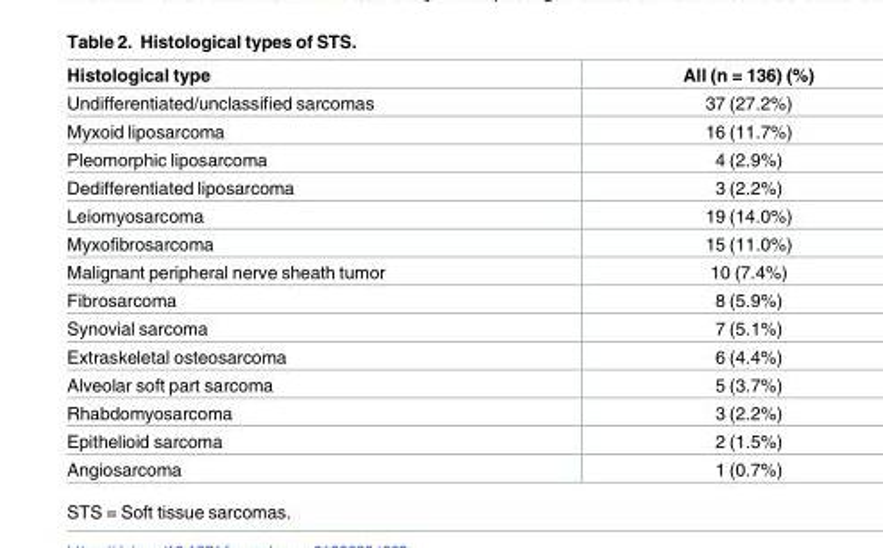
<table><thead><tr><td>Histological type</td><td>All (n = 136) (%)</td></tr></thead><tbody><tr><td>Undifferentiated/unclassified sarcomas</td><td>37 (27.2%)</td></tr><tr><td>Myxoid liposarcoma</td><td>16 (11.7%)</td></tr><tr><td>Pleomorphic liposarcoma</td><td>4 (2.9%)</td></tr><tr><td>Dedifferentiated liposarcoma</td><td>3 (2.2%)</td></tr><tr><td>Leiomyosarcoma</td><td>19 (14.0%)</td></tr><tr><td>Myxofibrosarcoma</td><td>15 (11.0%)</td></tr><tr><td>Malignant peripheral nerve sheath tumor</td><td>10 (7.4%)</td></tr><tr><td>Fibrosarcoma</td><td>8 (5.9%)</td></tr><tr><td>Synovial sarcoma</td><td>7 (5.1%)</td></tr><tr><td>Extraskeletal osteosarcoma</td><td>6 (4.4%)</td></tr><tr><td>Alveolar soft part sarcoma</td><td>5 (3.7%)</td></tr><tr><td>Rhabdomyosarcoma</td><td>3 (2.2%)</td></tr><tr><td>Epithelioid sarcoma</td><td>2 (1.5%)</td></tr><tr><td>Angiosarcoma</td><td>1 (0.7%)</td></tr></tbody></table>